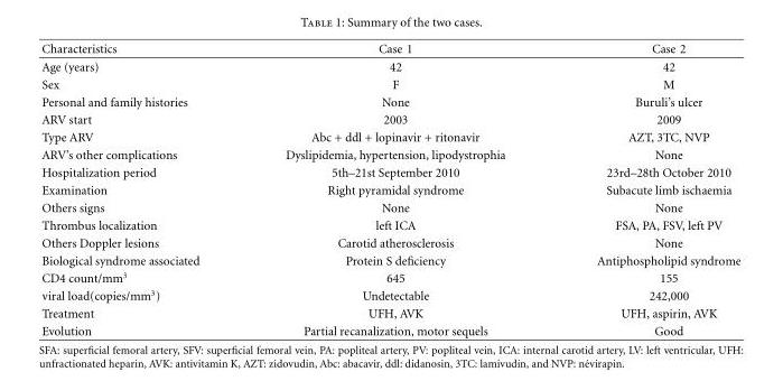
<table><thead><tr><td>Characteristics</td><td>Case 1</td><td>Case 2</td></tr></thead><tbody><tr><td>Age (years)</td><td>42</td><td>42</td></tr><tr><td>Sex</td><td>F</td><td>M</td></tr><tr><td>Personal and family histories</td><td>None</td><td>Buruli’s ulcer</td></tr><tr><td>ARV start</td><td>2003</td><td>2009</td></tr><tr><td>Type ARV</td><td>Abc + ddl + lopinavir + ritonavir</td><td>AZT, 3TC, NVP</td></tr><tr><td>ARV’s other complications</td><td>Dyslipidemia, hypertension, lipodystrophia</td><td>None</td></tr><tr><td>Hospitalization period</td><td>5th–21st September 2010</td><td>23rd–28th October 2010</td></tr><tr><td>Examination</td><td>Right pyramidal syndrome</td><td>Subacute limb ischaemia</td></tr><tr><td>Others signs</td><td>None</td><td>None</td></tr><tr><td>Thrombus localization</td><td>left ICA</td><td>FSA, PA, FSV, left PV</td></tr><tr><td>Others Doppler lesions</td><td>Carotid atherosclerosis</td><td>None</td></tr><tr><td>Biological syndrome associated</td><td>Protein S deficiency</td><td>Antiphospholipid syndrome</td></tr><tr><td>CD4 count/mm<sup>3</sup></td><td>645</td><td>155</td></tr><tr><td>viral load(copies/mm<sup>3</sup>)</td><td>Undetectable</td><td>242,000</td></tr><tr><td>Treatment</td><td>UFH, AVK</td><td>UFH, aspirin, AVK</td></tr><tr><td>Evolution</td><td>Partial recanalization, motor sequels</td><td>Good</td></tr></tbody></table>